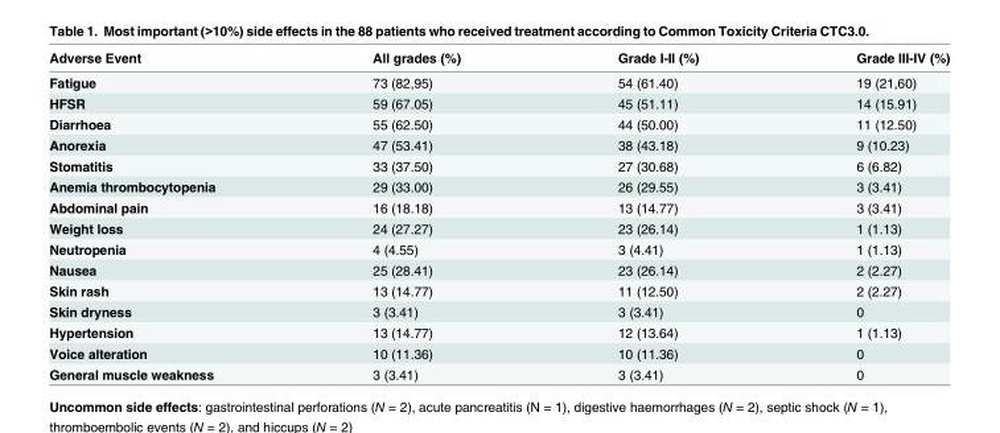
<table><thead><tr><td>Adverse Event</td><td>All grades (%)</td><td>Grade I-II (%)</td><td>Grade III-IV (%)</td></tr></thead><tbody><tr><td>Fatigue</td><td>73 (82,95)</td><td>54 (61.40)</td><td>19 (21,60)</td></tr><tr><td>HFSR</td><td>59 (67.05)</td><td>45 (51.11)</td><td>14 (15.91)</td></tr><tr><td>Diarrhoea</td><td>55 (62.50)</td><td>44 (50.00)</td><td>11 (12.50)</td></tr><tr><td>Anorexia</td><td>47 (53.41)</td><td>38 (43.18)</td><td>9 (10.23)</td></tr><tr><td>Stomatitis</td><td>33 (37.50)</td><td>27 (30.68)</td><td>6 (6.82)</td></tr><tr><td>Anemia thrombocytopenia</td><td>29 (33.00)</td><td>26 (29.55)</td><td>3 (3.41)</td></tr><tr><td>Abdominal pain</td><td>16 (18.18)</td><td>13 (14.77)</td><td>3 (3.41)</td></tr><tr><td>Weight loss</td><td>24 (27.27)</td><td>23 (26.14)</td><td>1 (1.13)</td></tr><tr><td>Neutropenia</td><td>4 (4.55)</td><td>3 (4.41)</td><td>1 (1.13)</td></tr><tr><td>Nausea</td><td>25 (28.41)</td><td>23 (26.14)</td><td>2 (2.27)</td></tr><tr><td>Skin rash</td><td>13 (14.77)</td><td>11 (12.50)</td><td>2 (2.27)</td></tr><tr><td>Skin dryness</td><td>3 (3.41)</td><td>3 (3.41)</td><td>0</td></tr><tr><td>Hypertension</td><td>13 (14.77)</td><td>12 (13.64)</td><td>1 (1.13)</td></tr><tr><td>Voice alteration</td><td>10 (11.36)</td><td>10 (11.36)</td><td>0</td></tr><tr><td>General muscle weakness</td><td>3 (3.41)</td><td>3 (3.41)</td><td>0</td></tr></tbody></table>